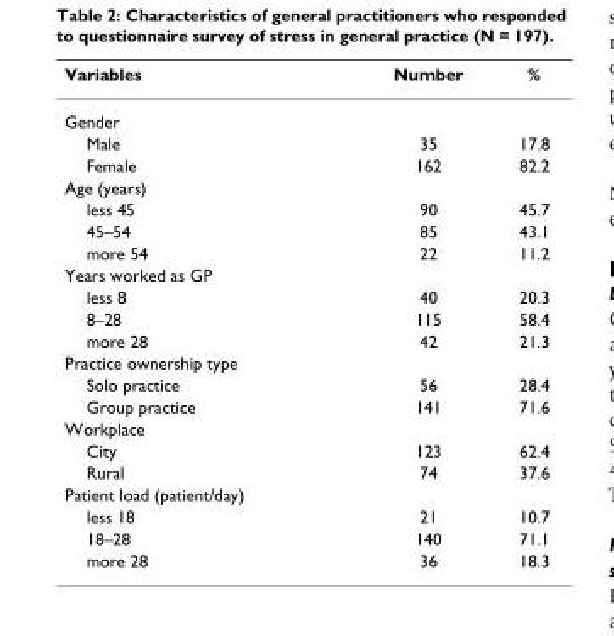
<table><thead><tr><td>Variables</td><td>Number</td><td>%</td></tr></thead><tbody><tr><td colspan="3">Gender</td></tr><tr><td>Male</td><td>35</td><td>17.8</td></tr><tr><td>Female</td><td>162</td><td>82.2</td></tr><tr><td colspan="3">Age (years)</td></tr><tr><td>less 45</td><td>90</td><td>45.7</td></tr><tr><td>45–54</td><td>85</td><td>43.1</td></tr><tr><td>more 54</td><td>22</td><td>11.2</td></tr><tr><td colspan="3">Years worked as GP</td></tr><tr><td>less 8</td><td>40</td><td>20.3</td></tr><tr><td>8–28</td><td>115</td><td>58.4</td></tr><tr><td>more 28</td><td>42</td><td>21.3</td></tr><tr><td colspan="3">Practice ownership type</td></tr><tr><td>Solo practice</td><td>56</td><td>28.4</td></tr><tr><td>Group practice</td><td>141</td><td>71.6</td></tr><tr><td colspan="3">Workplace</td></tr><tr><td>City</td><td>123</td><td>62.4</td></tr><tr><td>Rural</td><td>74</td><td>37.6</td></tr><tr><td colspan="3">Patient load (patient/day)</td></tr><tr><td>less 18</td><td>21</td><td>10.7</td></tr><tr><td>18–28</td><td>140</td><td>71.1</td></tr><tr><td>more 28</td><td>36</td><td>18.3</td></tr></tbody></table>